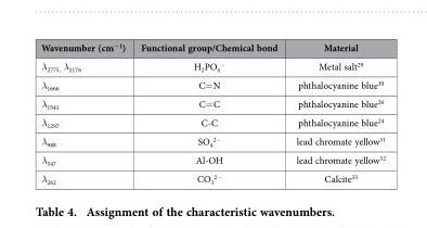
<table><thead><tr><td>Wavenumber (cm<sup>−1</sup>)</td><td>Functional group/Chemical bond</td><td>Material</td></tr></thead><tbody><tr><td>λ<sub>2775,</sub> λ<sub>2176</sub></td><td>H<sub>2</sub>PO<sub>4</sub> <sup>−</sup></td><td>Metal salt<sup>29</sup></td></tr><tr><td>λ<sub>1666</sub></td><td>C= N</td><td>phthalocyanine blue<sup>30</sup></td></tr><tr><td>λ<sub>1541</sub></td><td>C= C</td><td>phthalocyanine blue<sup>26</sup></td></tr><tr><td>λ<sub>1297</sub></td><td>C-C</td><td>phthalocyanine blue<sup>24</sup></td></tr><tr><td>λ<sub>988</sub></td><td>SO<sub>4</sub> <sup>2−</sup></td><td>lead chromate yellow<sup>31</sup></td></tr><tr><td>λ<sub>547</sub></td><td>Al-OH</td><td>lead chromate yellow<sup>32</sup></td></tr><tr><td>λ<sub>262</sub></td><td>CO<sub>3</sub> <sup>2−</sup></td><td>Calcite<sup>33</sup></td></tr></tbody></table>